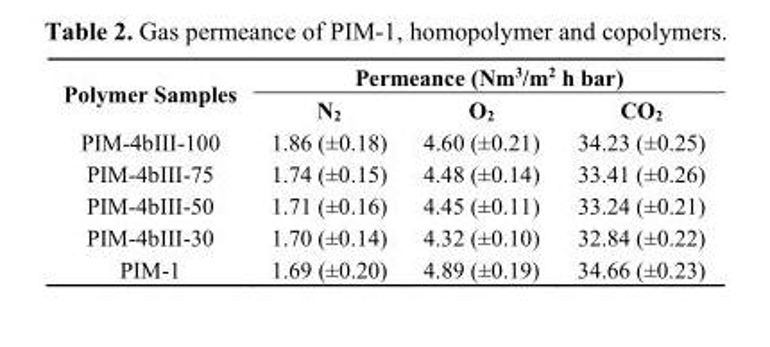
<table><thead><tr><td rowspan="2">Polymer Samples</td><td colspan="3">Permeance (Nm<sup>3</sup>/m<sup>2</sup> h bar)</td></tr><tr><td>N<sub>2</sub></td><td>O<sub>2</sub></td><td>CO<sub>2</sub></td></tr></thead><tbody><tr><td>PIM-4bIII-100</td><td>1.86 (±0.18)</td><td>4.60 (±0.21)</td><td>34.23 (±0.25)</td></tr><tr><td>PIM-4bIII-75</td><td>1.74 (±0.15)</td><td>4.48 (±0.14)</td><td>33.41 (±0.26)</td></tr><tr><td>PIM-4bIII-50</td><td>1.71 (±0.16)</td><td>4.45 (±0.11)</td><td>33.24 (±0.21)</td></tr><tr><td>PIM-4bIII-30</td><td>1.70 (±0.14)</td><td>4.32 (±0.10)</td><td>32.84 (±0.22)</td></tr><tr><td>PIM-1</td><td>1.69 (±0.20)</td><td>4.89 (±0.19)</td><td>34.66 (±0.23)</td></tr></tbody></table>